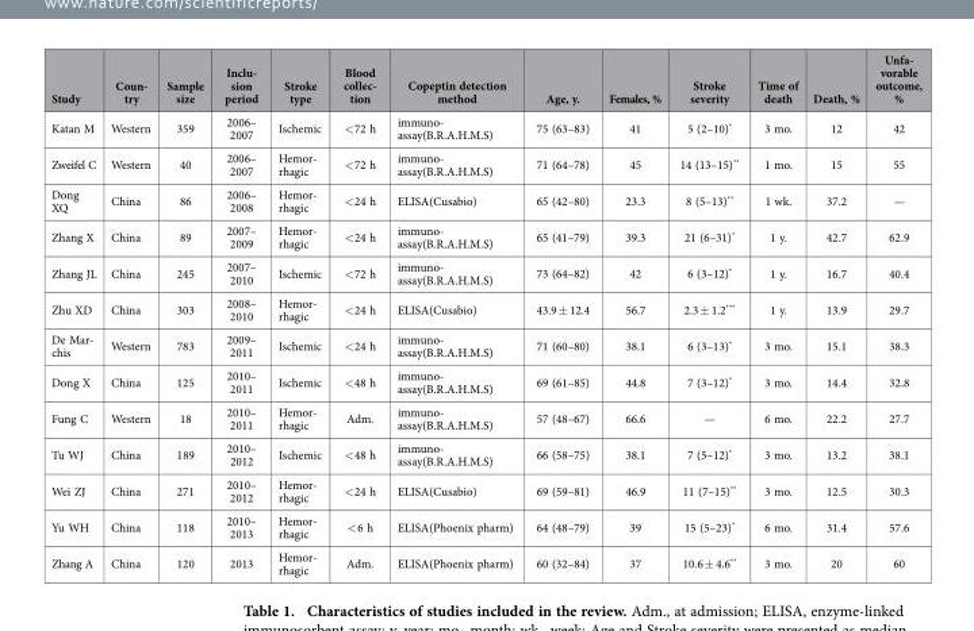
<table><thead><tr><td>Study</td><td>Coun- try</td><td>Sample size</td><td>Inclu- sion period</td><td>Stroke type</td><td>Blood collec- tion</td><td>Copeptin detection method</td><td>Age, y.</td><td>Females, %</td><td>Stroke severity</td><td>Time of death</td><td>Death, %</td><td>Unfa- vorable outcome, %</td></tr></thead><tbody><tr><td>Katan M</td><td>Western</td><td>359</td><td>2006– 2007</td><td>Ischemic</td><td>&lt; 72 h</td><td>immuno- assay(B.R.A.H.M.S)</td><td>75 (63–83)</td><td>41</td><td>5 (2–10)*</td><td>3 mo.</td><td>12</td><td>42</td></tr><tr><td>Zweifel C</td><td>Western</td><td>40</td><td>2006– 2007</td><td>Hemor- rhagic</td><td>&lt; 72 h</td><td>immuno- assay(B.R.A.H.M.S)</td><td>71 (64–78)</td><td>45</td><td>14 (13–15)**</td><td>1 mo.</td><td>15</td><td>55</td></tr><tr><td>Dong XQ</td><td>China</td><td>86</td><td>2006– 2008</td><td>Hemor- rhagic</td><td>&lt; 24 h</td><td>ELISA(Cusabio)</td><td>65 (42–80)</td><td>23.3</td><td>8 (5–13)**</td><td>1 wk.</td><td>37.2</td><td>—</td></tr><tr><td>Zhang X</td><td>China</td><td>89</td><td>2007– 2009</td><td>Hemor- rhagic</td><td>&lt; 24 h</td><td>immuno- assay(B.R.A.H.M.S)</td><td>65 (41–79)</td><td>39.3</td><td>21 (6–31)*</td><td>1 y.</td><td>42.7</td><td>62.9</td></tr><tr><td>Zhang JL</td><td>China</td><td>245</td><td>2007– 2010</td><td>Ischemic</td><td>&lt; 72 h</td><td>immuno- assay(B.R.A.H.M.S)</td><td>73 (64–82)</td><td>42</td><td>6 (3–12)*</td><td>1 y.</td><td>16.7</td><td>40.4</td></tr><tr><td>Zhu XD</td><td>China</td><td>303</td><td>2008– 2010</td><td>Hemor- rhagic</td><td>&lt; 24 h</td><td>ELISA(Cusabio)</td><td>43.9 ± 12.4</td><td>56.7</td><td>2.3 ± 1.2***</td><td>1 y.</td><td>13.9</td><td>29.7</td></tr><tr><td>De Mar- chis</td><td>Western</td><td>783</td><td>2009– 2011</td><td>Ischemic</td><td>&lt; 24 h</td><td>immuno- assay(B.R.A.H.M.S)</td><td>71 (60–80)</td><td>38.1</td><td>6 (3–13)*</td><td>3 mo.</td><td>15.1</td><td>38.3</td></tr><tr><td>Dong X</td><td>China</td><td>125</td><td>2010– 2011</td><td>Ischemic</td><td>&lt; 48 h</td><td>immuno- assay(B.R.A.H.M.S)</td><td>69 (61–85)</td><td>44.8</td><td>7 (3–12)*</td><td>3 mo.</td><td>14.4</td><td>32.8</td></tr><tr><td>Fung C</td><td>Western</td><td>18</td><td>2010– 2011</td><td>Hemor- rhagic</td><td>Adm.</td><td>immuno- assay(B.R.A.H.M.S)</td><td>57 (48–67)</td><td>66.6</td><td>—</td><td>6 mo.</td><td>22.2</td><td>27.7</td></tr><tr><td>Tu WJ</td><td>China</td><td>189</td><td>2010– 2012</td><td>Ischemic</td><td>&lt; 48 h</td><td>immuno- assay(B.R.A.H.M.S)</td><td>66 (58–75)</td><td>38.1</td><td>7 (5–12)*</td><td>3 mo.</td><td>13.2</td><td>38.1</td></tr><tr><td>Wei ZJ</td><td>China</td><td>271</td><td>2010– 2012</td><td>Hemor- rhagic</td><td>&lt; 24 h</td><td>ELISA(Cusabio)</td><td>69 (59–81)</td><td>46.9</td><td>11 (7–15)**</td><td>3 mo.</td><td>12.5</td><td>30.3</td></tr><tr><td>Yu WH</td><td>China</td><td>118</td><td>2010– 2013</td><td>Hemor- rhagic</td><td>&lt; 6 h</td><td>ELISA(Phoenix pharm)</td><td>64 (48–79)</td><td>39</td><td>15 (5–23)*</td><td>6 mo.</td><td>31.4</td><td>57.6</td></tr><tr><td>Zhang A</td><td>China</td><td>120</td><td>2013</td><td>Hemor- rhagic</td><td>Adm.</td><td>ELISA(Phoenix pharm)</td><td>60 (32–84)</td><td>37</td><td>10.6 ± 4.6**</td><td>3 mo.</td><td>20</td><td>60</td></tr></tbody></table>